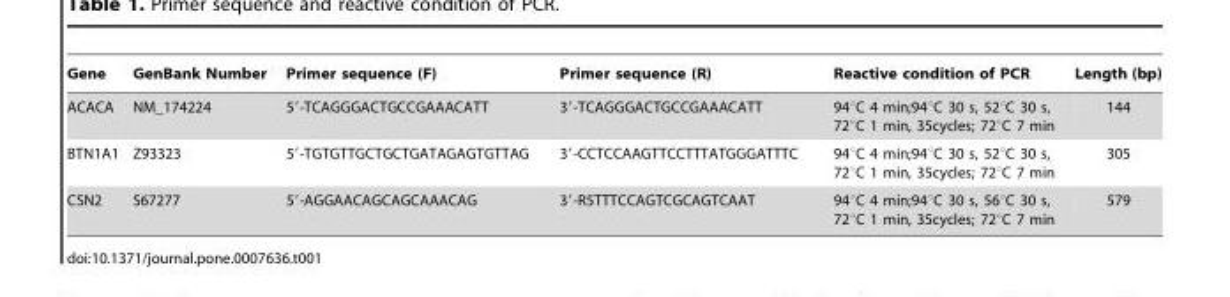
<table><thead><tr><td>Gene</td><td>GenBank Number</td><td>Primer sequence (F)</td><td>Primer sequence (R)</td><td>Reactive condition of PCR</td><td>Length (bp)</td></tr></thead><tbody><tr><td>ACACA</td><td>NM_174224</td><td>5′-TCAGGGACTGCCGAAACATT</td><td>3′-TCAGGGACTGCCGAAACATT</td><td>94°C 4 min;94°C 30 s, 52°C 30 s, 72°C 1 min, 35cycles; 72°C 7 min</td><td>144</td></tr><tr><td>BTN1A1</td><td>Z93323</td><td>5′-TGTGTTGCTGCTGATAGAGTGTTAG</td><td>3′-CCTCCAAGTTCCTTTATGGGATTTC</td><td>94°C 4 min;94°C 30 s, 52°C 30 s, 72°C 1 min, 35cycles; 72°C 7 min</td><td>305</td></tr><tr><td>CSN2</td><td>S67277</td><td>5′-AGGAACAGCAGCAAACAG</td><td>3′-R5TTTCCAGTCGCAGTCAAT</td><td>94°C 4 min;94°C 30 s, 56°C 30 s, 72°C 1 min, 35cycles; 72°C 7 min</td><td>579</td></tr></tbody></table>